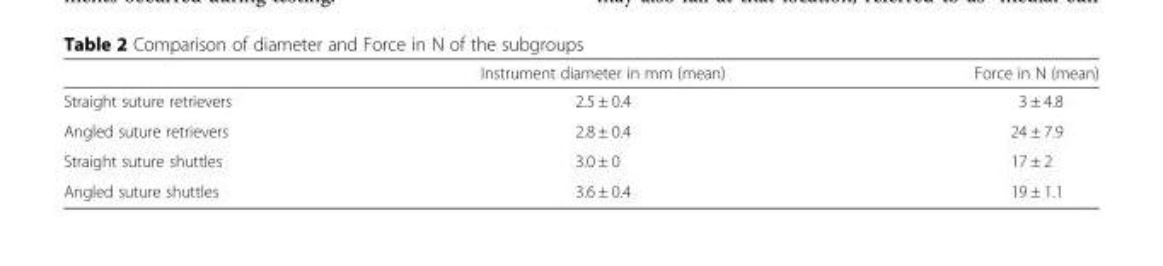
<table><thead><tr><td></td><td>Instrument diameter in mm (mean)</td><td>Force in N (mean)</td></tr></thead><tbody><tr><td>Straight suture retrievers</td><td>2.5 ± 0.4</td><td>3 ± 4.8</td></tr><tr><td>Angled suture retrievers</td><td>2.8 ± 0.4</td><td>24 ± 7.9</td></tr><tr><td>Straight suture shuttles</td><td>3.0 ± 0</td><td>17 ± 2</td></tr><tr><td>Angled suture shuttles</td><td>3.6 ± 0.4</td><td>19 ± 1.1</td></tr></tbody></table>